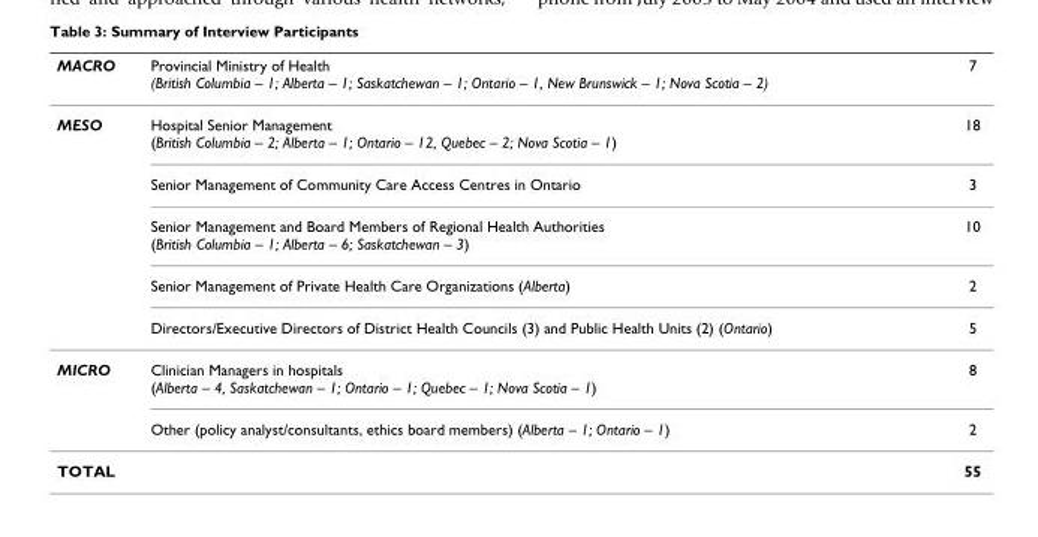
<table><thead><tr><td>MACRO</td><td>Provincial Ministry of Health (British Columbia – 1; Alberta – 1; Saskatchewan – 1; Ontario – 1, New Brunswick – 1; Nova Scotia – 2)</td><td>7</td></tr></thead><tbody><tr><td rowspan="5">MESO</td><td>Hospital Senior Management (British Columbia – 2; Alberta – 1; Ontario – 12, Quebec – 2; Nova Scotia – 1)</td><td>18</td></tr><tr><td>Senior Management of Community Care Access Centres in Ontario</td><td>3</td></tr><tr><td>Senior Management and Board Members of Regional Health Authorities (British Columbia – 1; Alberta – 6; Saskatchewan – 3)</td><td>10</td></tr><tr><td>Senior Management of Private Health Care Organizations (Alberta)</td><td>2</td></tr><tr><td>Directors/Executive Directors of District Health Councils (3) and Public Health Units (2) (Ontario)</td><td>5</td></tr><tr><td rowspan="2">MICRO</td><td>Clinician Managers in hospitals (Alberta – 4, Saskatchewan – 1; Ontario – 1; Quebec – 1; Nova Scotia – 1)</td><td>8</td></tr><tr><td>Other (policy analyst/consultants, ethics board members) (Alberta – 1; Ontario – 1)</td><td>2</td></tr><tr><td>TOTAL</td><td></td><td>55</td></tr></tbody></table>